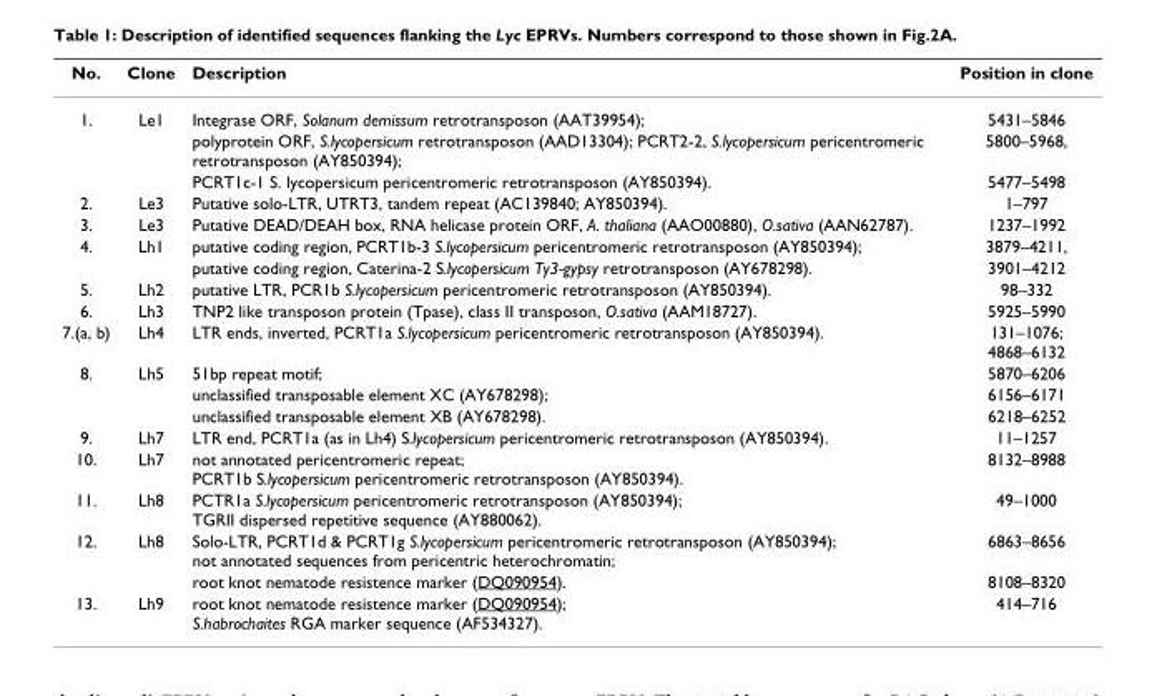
<table><thead><tr><td>No.</td><td>Clone</td><td>Description</td><td>Position in clone</td></tr></thead><tbody><tr><td rowspan="3">1.</td><td>Le1</td><td>Integrase ORF, Solanum demissum retrotransposon (AAT39954);</td><td>5431–5846</td></tr><tr><td></td><td>polyprotein ORF, S.lycopersicum retrotransposon (AAD13304); PCRT2-2, S.lycopersicum pericentromeric retrotransposon (AY850394);</td><td>5800–5968,</td></tr><tr><td></td><td>PCRT1c-1 S. lycopersicum pericentromeric retrotransposon (AY850394).</td><td>5477–5498</td></tr><tr><td>2.</td><td>Le3</td><td>Putative solo-LTR, UTRT3, tandem repeat (AC139840; AY850394).</td><td>1–797</td></tr><tr><td>3.</td><td>Le3</td><td>Putative DEAD/DEAH box, RNA helicase protein ORF, A. thaliana (AAO00880), O.sativa (AAN62787).</td><td>1237–1992</td></tr><tr><td rowspan="2">4.</td><td>Lh1</td><td>putative coding region, PCRT1b-3 S.lycopersicum pericentromeric retrotransposon (AY850394);</td><td>3879–4211,</td></tr><tr><td></td><td>putative coding region, Caterina-2 S.lycopersicum Ty3-gypsy retrotransposon (AY678298).</td><td>3901–4212</td></tr><tr><td>5.</td><td>Lh2</td><td>putative LTR, PCR1b S.lycopersicum pericentromeric retrotransposon (AY850394).</td><td>98–332</td></tr><tr><td>6.</td><td>Lh3</td><td>TNP2 like transposon protein (Tpase), class II transposon, O.sativa (AAM18727).</td><td>5925–5990</td></tr><tr><td>7.(a, b)</td><td>Lh4</td><td>LTR ends, inverted, PCRT1a S.lycopersicum pericentromeric retrotransposon (AY850394).</td><td>131–1076; 4868–6132</td></tr><tr><td rowspan="3">8.</td><td>Lh5</td><td>51bp repeat motif;</td><td>5870–6206</td></tr><tr><td></td><td>unclassified transposable element XC (AY678298);</td><td>6156–6171</td></tr><tr><td></td><td>unclassified transposable element XB (AY678298).</td><td>6218–6252</td></tr><tr><td>9.</td><td>Lh7</td><td>LTR end, PCRT1a (as in Lh4) S.lycopersicum pericentromeric retrotransposon (AY850394).</td><td>11–1257</td></tr><tr><td>10.</td><td>Lh7</td><td>not annotated pericentromeric repeat; PCRT1b S.lycopersicum pericentromeric retrotransposon (AY850394).</td><td>8132–8988</td></tr><tr><td>11.</td><td>Lh8</td><td>PCTR1a S.lycopersicum pericentromeric retrotransposon (AY850394); TGRII dispersed repetitive sequence (AY880062).</td><td>49–1000</td></tr><tr><td rowspan="2">12.</td><td>Lh8</td><td>Solo-LTR, PCRT1d &amp; PCRT1g S.lycopersicum pericentromeric retrotransposon (AY850394); not annotated sequences from pericentric heterochromatin;</td><td>6863–8656</td></tr><tr><td></td><td>root knot nematode resistence marker (DQ090954).</td><td>8108–8320</td></tr><tr><td>13.</td><td>Lh9</td><td>root knot nematode resistence marker (DQ090954); S.habrochaites RGA marker sequence (AF534327).</td><td>414–716</td></tr></tbody></table>